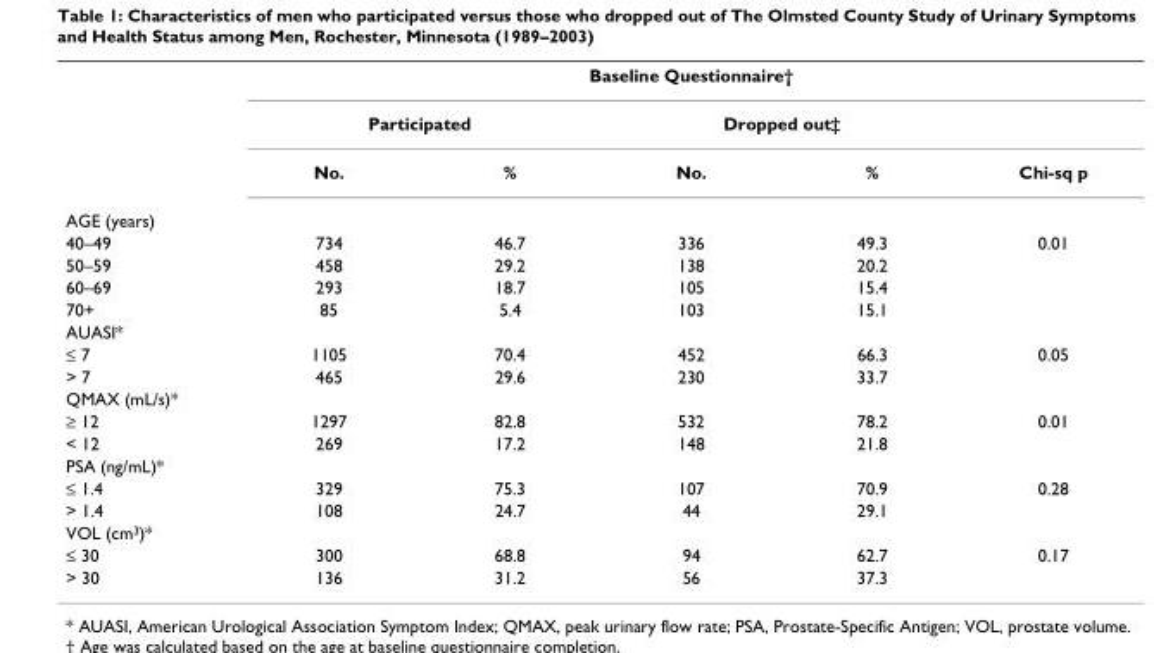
<table><thead><tr><td rowspan="3"></td><td colspan="5">Baseline Questionnaire†</td></tr><tr><td colspan="2">Participated</td><td colspan="2">Dropped out‡</td><td rowspan="2">Chi-sq p</td></tr><tr><td>No.</td><td>%</td><td>No.</td><td>%</td></tr></thead><tbody><tr><td colspan="6">AGE (years)</td></tr><tr><td>40–49</td><td>734</td><td>46.7</td><td>336</td><td>49.3</td><td>0.01</td></tr><tr><td>50–59</td><td>458</td><td>29.2</td><td>138</td><td>20.2</td><td></td></tr><tr><td>60–69</td><td>293</td><td>18.7</td><td>105</td><td>15.4</td><td></td></tr><tr><td>70+</td><td>85</td><td>5.4</td><td>103</td><td>15.1</td><td></td></tr><tr><td colspan="6">AUASI*</td></tr><tr><td>≤ 7</td><td>1105</td><td>70.4</td><td>452</td><td>66.3</td><td>0.05</td></tr><tr><td>&gt; 7</td><td>465</td><td>29.6</td><td>230</td><td>33.7</td><td></td></tr><tr><td colspan="6">QMAX (mL/s)*</td></tr><tr><td>≥ 12</td><td>1297</td><td>82.8</td><td>532</td><td>78.2</td><td>0.01</td></tr><tr><td>&lt; 12</td><td>269</td><td>17.2</td><td>148</td><td>21.8</td><td></td></tr><tr><td colspan="6">PSA (ng/mL)*</td></tr><tr><td>≤ 1.4</td><td>329</td><td>75.3</td><td>107</td><td>70.9</td><td>0.28</td></tr><tr><td>&gt; 1.4</td><td>108</td><td>24.7</td><td>44</td><td>29.1</td><td></td></tr><tr><td colspan="6">VOL (cm<sup>3</sup>)*</td></tr><tr><td>≤ 30</td><td>300</td><td>68.8</td><td>94</td><td>62.7</td><td>0.17</td></tr><tr><td>&gt; 30</td><td>136</td><td>31.2</td><td>56</td><td>37.3</td><td></td></tr></tbody></table>